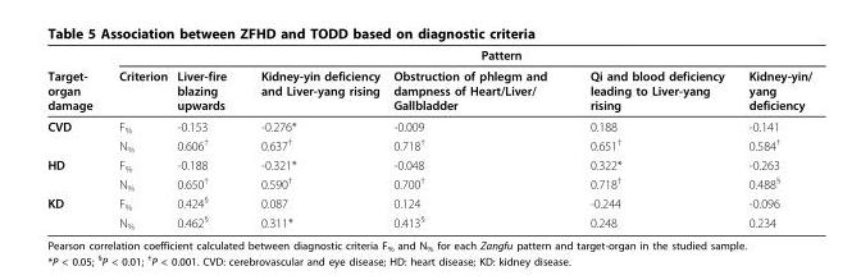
<table><thead><tr><td rowspan="2">Target- organ damage</td><td rowspan="2">Criterion</td><td colspan="5">Pattern</td></tr><tr><td>Liver-fire blazing upwards</td><td>Kidney-yin deficiency and Liver-yang rising</td><td>Obstruction of phlegm and dampness of Heart/Liver/ Gallbladder</td><td>Qi and blood deficiency leading to Liver-yang rising</td><td>Kidney-yin/ yang deficiency</td></tr></thead><tbody><tr><td rowspan="2">CVD</td><td>F<sub>%</sub></td><td>-0.153</td><td>-0.276*</td><td>-0.009</td><td>0.188</td><td>-0.141</td></tr><tr><td>N<sub>%</sub></td><td>0.606<sup>†</sup></td><td>0.637<sup>†</sup></td><td>0.718<sup>†</sup></td><td>0.651<sup>†</sup></td><td>0.584<sup>†</sup></td></tr><tr><td rowspan="2">HD</td><td>F<sub>%</sub></td><td>-0.188</td><td>-0.321*</td><td>-0.048</td><td>0.322*</td><td>-0.263</td></tr><tr><td>N<sub>%</sub></td><td>0.650<sup>†</sup></td><td>0.590<sup>†</sup></td><td>0.700<sup>†</sup></td><td>0.718<sup>†</sup></td><td>0.488<sup>§</sup></td></tr><tr><td rowspan="2">KD</td><td>F<sub>%</sub></td><td>0.424<sup>§</sup></td><td>0.087</td><td>0.124</td><td>-0.244</td><td>-0.096</td></tr><tr><td>N<sub>%</sub></td><td>0.462<sup>§</sup></td><td>0.311*</td><td>0.413<sup>§</sup></td><td>0.248</td><td>0.234</td></tr></tbody></table>